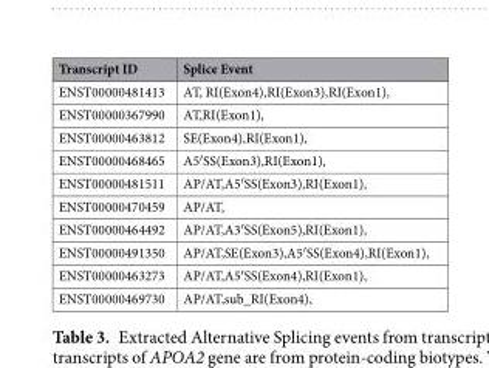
<table><thead><tr><td>Transcript ID</td><td>Splice Event</td></tr></thead><tbody><tr><td>ENST00000481413</td><td>AT, RI(Exon4),RI(Exon3),RI(Exon1),</td></tr><tr><td>ENST00000367990</td><td>AT,RI(Exon1),</td></tr><tr><td>ENST00000463812</td><td>SE(Exon4),RI(Exon1),</td></tr><tr><td>ENST00000468465</td><td>A5′SS(Exon3),RI(Exon1),</td></tr><tr><td>ENST00000481511</td><td>AP/AT,A5′SS(Exon3),RI(Exon1),</td></tr><tr><td>ENST00000470459</td><td>AP/AT,</td></tr><tr><td>ENST00000464492</td><td>AP/AT,A3′SS(Exon5),RI(Exon1),</td></tr><tr><td>ENST00000491350</td><td>AP/AT,SE(Exon3),A5′SS(Exon4),RI(Exon1),</td></tr><tr><td>ENST00000463273</td><td>AP/AT,A5′SS(Exon4),RI(Exon1),</td></tr><tr><td>ENST00000469730</td><td>AP/AT,sub_RI(Exon4),</td></tr></tbody></table>